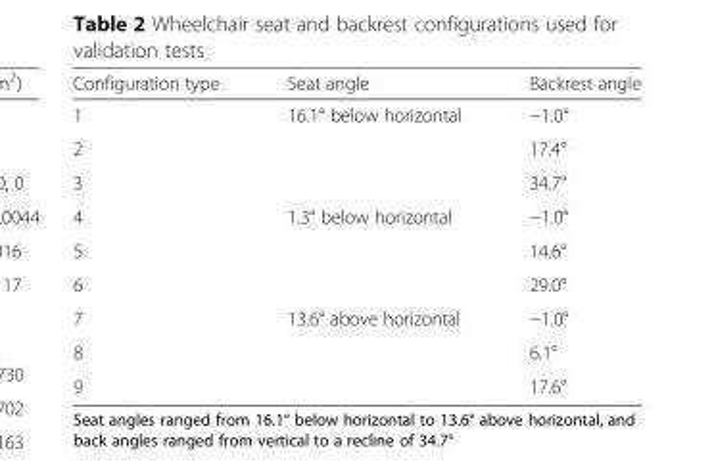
<table><thead><tr><td>Configuration type</td><td>Seat angle</td><td>Backrest angle</td></tr></thead><tbody><tr><td>1</td><td rowspan="3">16.1° below horizontal</td><td>−1.0°</td></tr><tr><td>2</td><td>17.4°</td></tr><tr><td>3</td><td>34.7°</td></tr><tr><td>4</td><td rowspan="3">1.3° below horizontal</td><td>−1.0°</td></tr><tr><td>5</td><td>14.6°</td></tr><tr><td>6</td><td>29.0°</td></tr><tr><td>7</td><td rowspan="3">13.6° above horizontal</td><td>−1.0°</td></tr><tr><td>8</td><td>6.1°</td></tr><tr><td>9</td><td>17.6°</td></tr></tbody></table>